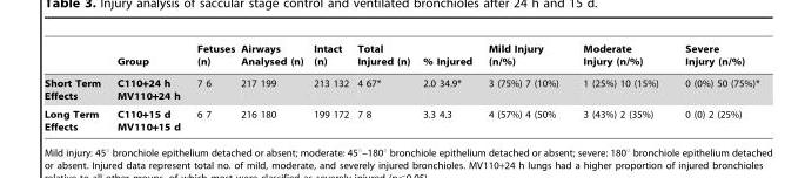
<table><thead><tr><td></td><td>Group</td><td>Fetuses (n)</td><td>Airways Analysed (n)</td><td>Intact (n)</td><td>Total Injured (n)</td><td>% Injured</td><td>Mild Injury (n/%)</td><td>Moderate Injury (n/%)</td><td>Severe Injury (n/%)</td></tr></thead><tbody><tr><td>Short Term Effects</td><td>C110+24 h MV110+24 h</td><td>7 6</td><td>217 199</td><td>213 132</td><td>4 67*</td><td>2.0 34.9*</td><td>3 (75%) 7 (10%)</td><td>1 (25%) 10 (15%)</td><td>0 (0%) 50 (75%)*</td></tr><tr><td>Long Term Effects</td><td>C110+15 d MV110+15 d</td><td>6 7</td><td>216 180</td><td>199 172</td><td>7 8</td><td>3.3 4.3</td><td>4 (57%) 4 (50%</td><td>3 (43%) 2 (35%)</td><td>0 (0) 2 (25%)</td></tr></tbody></table>